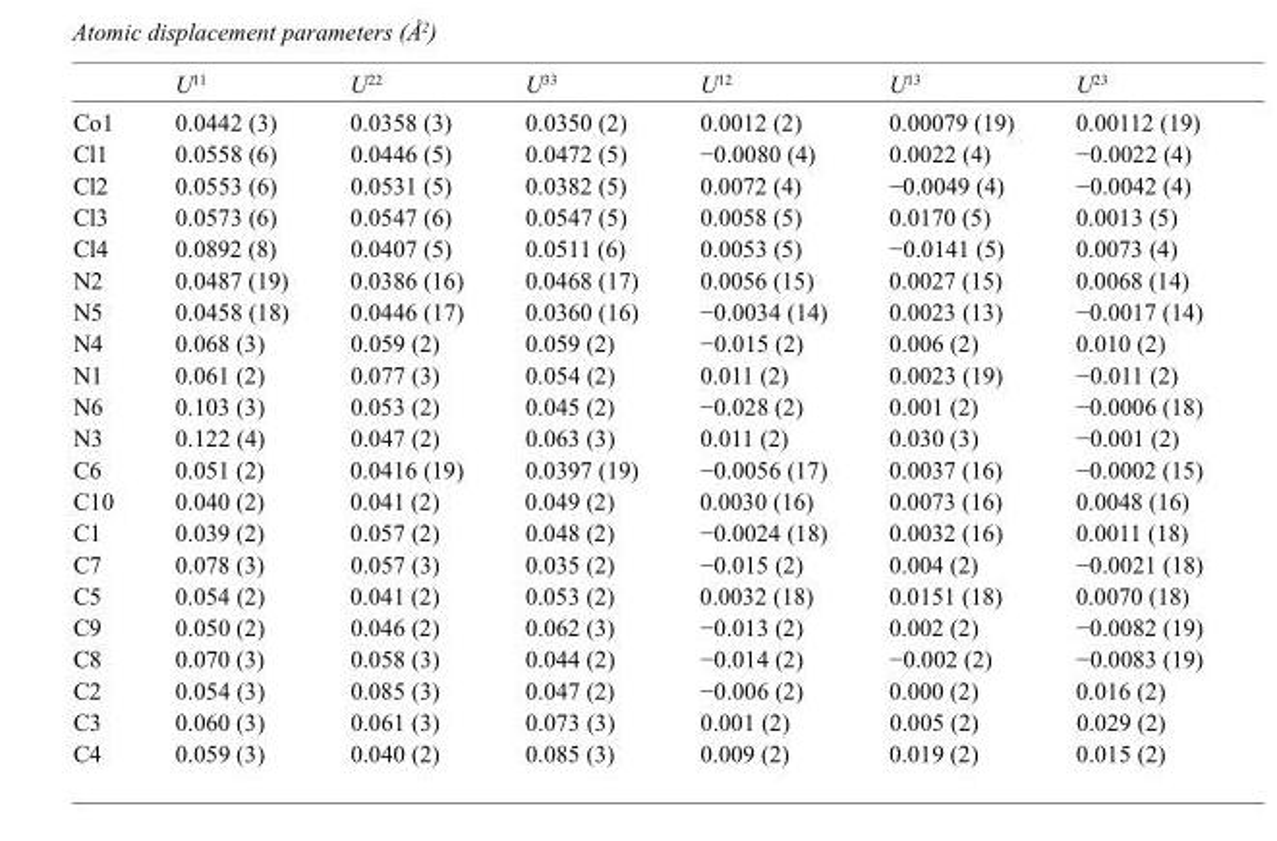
<table><thead><tr><td></td><td>U<sup>11</sup></td><td>U<sup>22</sup></td><td>U<sup>33</sup></td><td>U<sup>12</sup></td><td>U<sup>13</sup></td><td>U<sup>23</sup></td></tr></thead><tbody><tr><td>Co1</td><td>0.0442 (3)</td><td>0.0358 (3)</td><td>0.0350 (2)</td><td>0.0012 (2)</td><td>0.00079 (19)</td><td>0.00112 (19)</td></tr><tr><td>Cl1</td><td>0.0558 (6)</td><td>0.0446 (5)</td><td>0.0472 (5)</td><td>−0.0080 (4)</td><td>0.0022 (4)</td><td>−0.0022 (4)</td></tr><tr><td>Cl2</td><td>0.0553 (6)</td><td>0.0531 (5)</td><td>0.0382 (5)</td><td>0.0072 (4)</td><td>−0.0049 (4)</td><td>−0.0042 (4)</td></tr><tr><td>Cl3</td><td>0.0573 (6)</td><td>0.0547 (6)</td><td>0.0547 (5)</td><td>0.0058 (5)</td><td>0.0170 (5)</td><td>0.0013 (5)</td></tr><tr><td>Cl4</td><td>0.0892 (8)</td><td>0.0407 (5)</td><td>0.0511 (6)</td><td>0.0053 (5)</td><td>−0.0141 (5)</td><td>0.0073 (4)</td></tr><tr><td>N2</td><td>0.0487 (19)</td><td>0.0386 (16)</td><td>0.0468 (17)</td><td>0.0056 (15)</td><td>0.0027 (15)</td><td>0.0068 (14)</td></tr><tr><td>N5</td><td>0.0458 (18)</td><td>0.0446 (17)</td><td>0.0360 (16)</td><td>−0.0034 (14)</td><td>0.0023 (13)</td><td>−0.0017 (14)</td></tr><tr><td>N4</td><td>0.068 (3)</td><td>0.059 (2)</td><td>0.059 (2)</td><td>−0.015 (2)</td><td>0.006 (2)</td><td>0.010 (2)</td></tr><tr><td>N1</td><td>0.061 (2)</td><td>0.077 (3)</td><td>0.054 (2)</td><td>0.011 (2)</td><td>0.0023 (19)</td><td>−0.011 (2)</td></tr><tr><td>N6</td><td>0.103 (3)</td><td>0.053 (2)</td><td>0.045 (2)</td><td>−0.028 (2)</td><td>0.001 (2)</td><td>−0.0006 (18)</td></tr><tr><td>N3</td><td>0.122 (4)</td><td>0.047 (2)</td><td>0.063 (3)</td><td>0.011 (2)</td><td>0.030 (3)</td><td>−0.001 (2)</td></tr><tr><td>C6</td><td>0.051 (2)</td><td>0.0416 (19)</td><td>0.0397 (19)</td><td>−0.0056 (17)</td><td>0.0037 (16)</td><td>−0.0002 (15)</td></tr><tr><td>C10</td><td>0.040 (2)</td><td>0.041 (2)</td><td>0.049 (2)</td><td>0.0030 (16)</td><td>0.0073 (16)</td><td>0.0048 (16)</td></tr><tr><td>C1</td><td>0.039 (2)</td><td>0.057 (2)</td><td>0.048 (2)</td><td>−0.0024 (18)</td><td>0.0032 (16)</td><td>0.0011 (18)</td></tr><tr><td>C7</td><td>0.078 (3)</td><td>0.057 (3)</td><td>0.035 (2)</td><td>−0.015 (2)</td><td>0.004 (2)</td><td>−0.0021 (18)</td></tr><tr><td>C5</td><td>0.054 (2)</td><td>0.041 (2)</td><td>0.053 (2)</td><td>0.0032 (18)</td><td>0.0151 (18)</td><td>0.0070 (18)</td></tr><tr><td>C9</td><td>0.050 (2)</td><td>0.046 (2)</td><td>0.062 (3)</td><td>−0.013 (2)</td><td>0.002 (2)</td><td>−0.0082 (19)</td></tr><tr><td>C8</td><td>0.070 (3)</td><td>0.058 (3)</td><td>0.044 (2)</td><td>−0.014 (2)</td><td>−0.002 (2)</td><td>−0.0083 (19)</td></tr><tr><td>C2</td><td>0.054 (3)</td><td>0.085 (3)</td><td>0.047 (2)</td><td>−0.006 (2)</td><td>0.000 (2)</td><td>0.016 (2)</td></tr><tr><td>C3</td><td>0.060 (3)</td><td>0.061 (3)</td><td>0.073 (3)</td><td>0.001 (2)</td><td>0.005 (2)</td><td>0.029 (2)</td></tr><tr><td>C4</td><td>0.059 (3)</td><td>0.040 (2)</td><td>0.085 (3)</td><td>0.009 (2)</td><td>0.019 (2)</td><td>0.015 (2)</td></tr></tbody></table>